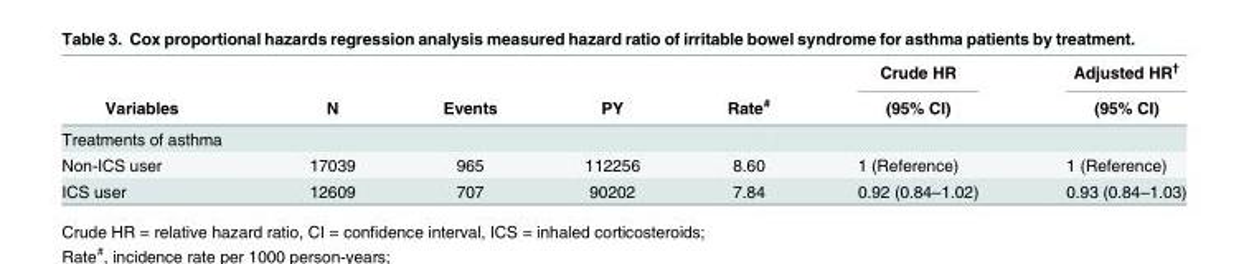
<table><thead><tr><td rowspan="2">Variables</td><td rowspan="2">N</td><td rowspan="2">Events</td><td rowspan="2">PY</td><td rowspan="2">Rate<sup>#</sup></td><td rowspan="2">Crude HR (95% CI)</td><td rowspan="2">Adjusted HR<sup>†</sup> (95% CI)</td></tr><tr></tr></thead><tbody><tr><td colspan="7">Treatments of asthma</td></tr><tr><td>Non-ICS user</td><td>17039</td><td>965</td><td>112256</td><td>8.60</td><td>1 (Reference)</td><td>1 (Reference)</td></tr><tr><td>ICS user</td><td>12609</td><td>707</td><td>90202</td><td>7.84</td><td>0.92 (0.84–1.02)</td><td>0.93 (0.84–1.03)</td></tr></tbody></table>